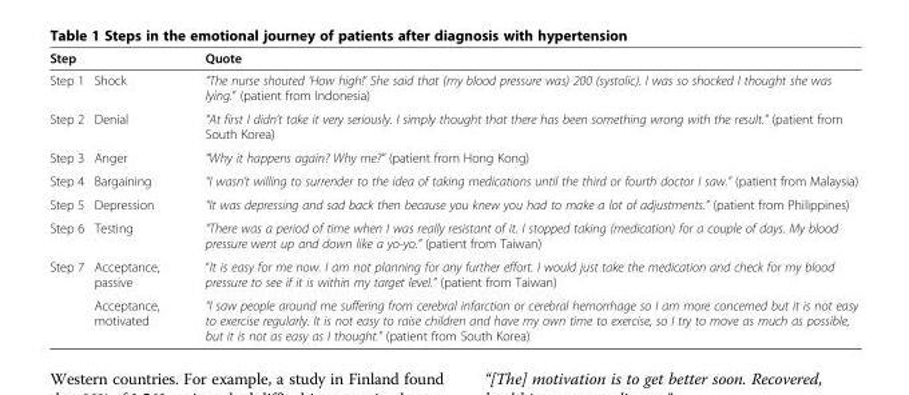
<table><thead><tr><td colspan="2">Step</td><td rowspan="2">Quote “The nurse shouted ‘How high!’ She said that (my blood pressure was) 200 (systolic). I was so shocked I thought she was lying.” (patient from Indonesia)</td></tr><tr><td>Step 1</td><td>Shock</td></tr></thead><tbody><tr><td>Step 2</td><td>Denial</td><td>“At first I didn’t take it very seriously. I simply thought that there has been something wrong with the result.” (patient from South Korea)</td></tr><tr><td>Step 3</td><td>Anger</td><td>“Why it happens again? Why me?” (patient from Hong Kong)</td></tr><tr><td>Step 4</td><td>Bargaining</td><td>“I wasn’t willing to surrender to the idea of taking medications until the third or fourth doctor I saw.” (patient from Malaysia)</td></tr><tr><td>Step 5</td><td>Depression</td><td>“It was depressing and sad back then because you knew you had to make a lot of adjustments.” (patient from Philippines)</td></tr><tr><td>Step 6</td><td>Testing</td><td>“There was a period of time when I was really resistant of it. I stopped taking (medication) for a couple of days. My blood pressure went up and down like a yo-yo.” (patient from Taiwan)</td></tr><tr><td rowspan="2">Step 7</td><td>Acceptance, passive</td><td>“It is easy for me now. I am not planning for any further effort. I would just take the medication and check for my blood pressure to see if it is within my target level.” (patient from Taiwan)</td></tr><tr><td>Acceptance, motivated</td><td>“I saw people around me suffering from cerebral infarction or cerebral hemorrhage so I am more concerned but it is not easy to exercise regularly. It is not easy to raise children and have my own time to exercise, so I try to move as much as possible, but it is not as easy as I thought.” (patient from South Korea)</td></tr></tbody></table>